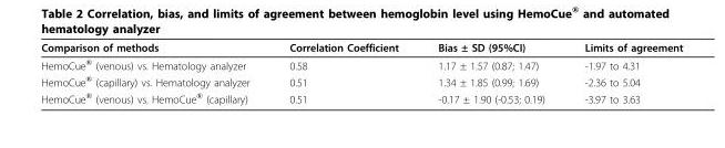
<table><thead><tr><td>Comparison of methods</td><td>Correlation Coefficient</td><td>Bias ± SD (95%CI)</td><td>Limits of agreement</td></tr></thead><tbody><tr><td>HemoCue<sup>®</sup> (venous) vs. Hematology analyzer</td><td>0.58</td><td>1.17 ± 1.57 (0.87; 1.47)</td><td>-1.97 to 4.31</td></tr><tr><td>HemoCue<sup>®</sup> (capillary) vs. Hematology analyzer</td><td>0.51</td><td>1.34 ± 1.85 (0.99; 1.69)</td><td>-2.36 to 5.04</td></tr><tr><td>HemoCue<sup>®</sup> (venous) vs. HemoCue<sup>®</sup> (capillary)</td><td>0.51</td><td>-0.17 ± 1.90 (-0.53; 0.19)</td><td>-3.97 to 3.63</td></tr></tbody></table>